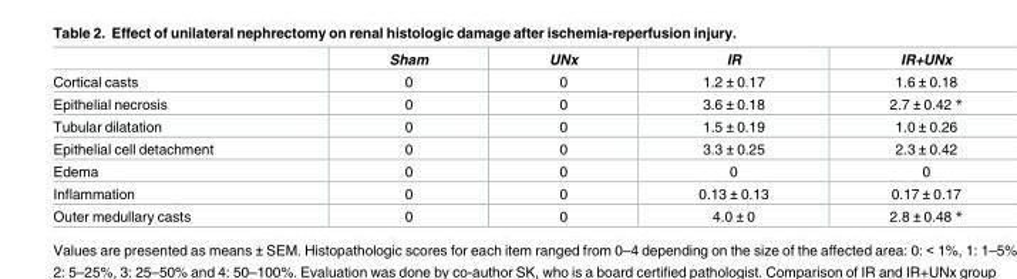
<table><thead><tr><td></td><td>Sham</td><td>UNx</td><td>IR</td><td>IR+UNx</td></tr></thead><tbody><tr><td>Cortical casts</td><td>0</td><td>0</td><td>1.2 ± 0.17</td><td>1.6 ± 0.18</td></tr><tr><td>Epithelial necrosis</td><td>0</td><td>0</td><td>3.6 ± 0.18</td><td>2.7 ± 0.42 *</td></tr><tr><td>Tubular dilatation</td><td>0</td><td>0</td><td>1.5 ± 0.19</td><td>1.0 ± 0.26</td></tr><tr><td>Epithelial cell detachment</td><td>0</td><td>0</td><td>3.3 ± 0.25</td><td>2.3 ± 0.42</td></tr><tr><td>Edema</td><td>0</td><td>0</td><td>0</td><td>0</td></tr><tr><td>Inflammation</td><td>0</td><td>0</td><td>0.13 ± 0.13</td><td>0.17 ± 0.17</td></tr><tr><td>Outer medullary casts</td><td>0</td><td>0</td><td>4.0 ± 0</td><td>2.8 ± 0.48 *</td></tr></tbody></table>